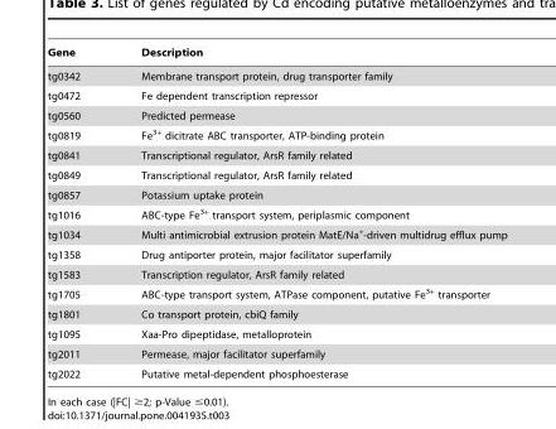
<table><thead><tr><td>Gene</td><td>Description</td></tr></thead><tbody><tr><td>tg0342</td><td>Membrane transport protein, drug transporter family</td></tr><tr><td>tg0472</td><td>Fe dependent transcription repressor</td></tr><tr><td>tg0560</td><td>Predicted permease</td></tr><tr><td>tg0819</td><td>Fe<sup>3+</sup> dicitrate ABC transporter, ATP-binding protein</td></tr><tr><td>tg0841</td><td>Transcriptional regulator, ArsR family related</td></tr><tr><td>tg0849</td><td>Transcriptional regulator, ArsR family related</td></tr><tr><td>tg0857</td><td>Potassium uptake protein</td></tr><tr><td>tg1016</td><td>ABC-type Fe<sup>3+</sup> transport system, periplasmic component</td></tr><tr><td>tg1034</td><td>Multi antimicrobial extrusion protein MatE/Na<sup>+</sup>-driven multidrug efflux pump</td></tr><tr><td>tg1358</td><td>Drug antiporter protein, major facilitator superfamily</td></tr><tr><td>tg1583</td><td>Transcription regulator, ArsR family related</td></tr><tr><td>tg1705</td><td>ABC-type transport system, ATPase component, putative Fe<sup>3+</sup> transporter</td></tr><tr><td>tg1801</td><td>Co transport protein, cbiQ family</td></tr><tr><td>tg1095</td><td>Xaa-Pro dipeptidase, metalloprotein</td></tr><tr><td>tg2011</td><td>Permease, major facilitator superfamily</td></tr><tr><td>tg2022</td><td>Putative metal-dependent phosphoesterase</td></tr></tbody></table>